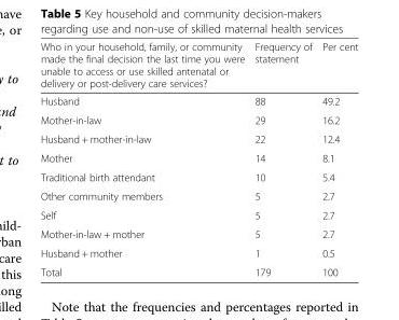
<table><thead><tr><td>Who in your household, family, or community made the final decision the last time you were unable to access or use skilled antenatal or delivery or post-delivery care services?</td><td>Frequency of statement</td><td>Per cent</td></tr></thead><tbody><tr><td>Husband</td><td>88</td><td>49.2</td></tr><tr><td>Mother-in-law</td><td>29</td><td>16.2</td></tr><tr><td>Husband + mother-in-law</td><td>22</td><td>12.4</td></tr><tr><td>Mother</td><td>14</td><td>8.1</td></tr><tr><td>Traditional birth attendant</td><td>10</td><td>5.4</td></tr><tr><td>Other community members</td><td>5</td><td>2.7</td></tr><tr><td>Self</td><td>5</td><td>2.7</td></tr><tr><td>Mother-in-law + mother</td><td>5</td><td>2.7</td></tr><tr><td>Husband + mother</td><td>1</td><td>0.5</td></tr><tr><td>Total</td><td>179</td><td>100</td></tr></tbody></table>